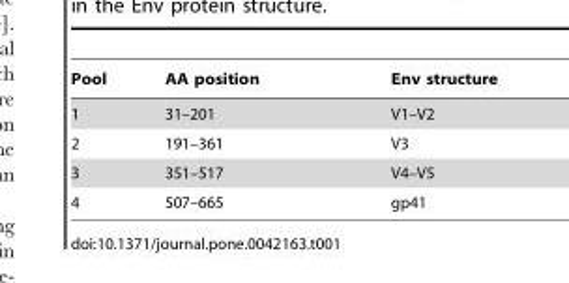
<table><thead><tr><td>Pool</td><td>AA position</td><td>Env structure</td></tr></thead><tbody><tr><td>1</td><td>31–201</td><td>V1–V2</td></tr><tr><td>2</td><td>191–361</td><td>V3</td></tr><tr><td>3</td><td>351–517</td><td>V4–V5</td></tr><tr><td>4</td><td>507–665</td><td>gp41</td></tr></tbody></table>